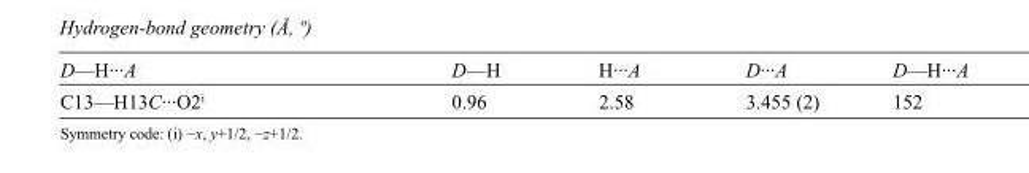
<table><tbody><tr><td>D—H···A</td><td>D—H</td><td>H···A</td><td>D···A</td><td>D—H···A</td></tr><tr><td>C13—H13C···O2<sup>i</sup></td><td>0.96</td><td>2.58</td><td>3.455 (2)</td><td>152</td></tr></tbody></table>